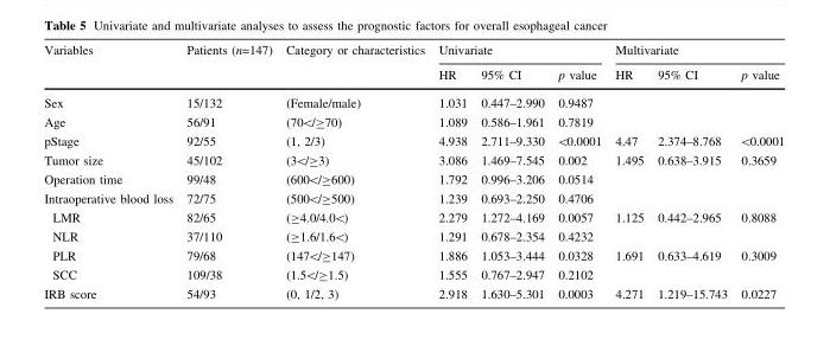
<table><thead><tr><td rowspan="2">Variables</td><td rowspan="2">Patients (n=147)</td><td rowspan="2">Category or characteristics</td><td colspan="3">Univariate</td><td colspan="3">Multivariate</td></tr><tr><td>HR</td><td>95% CI</td><td>p value</td><td>HR</td><td>95% CI</td><td>p value</td></tr></thead><tbody><tr><td>Sex</td><td>15/132</td><td>(Female/male)</td><td>1.031</td><td>0.447–2.990</td><td>0.9487</td><td></td><td></td><td></td></tr><tr><td>Age</td><td>56/91</td><td>(70&lt;/≥70)</td><td>1.089</td><td>0.586–1.961</td><td>0.7819</td><td></td><td></td><td></td></tr><tr><td>pStage</td><td>92/55</td><td>(1, 2/3)</td><td>4.938</td><td>2.711–9.330</td><td>&lt;0.0001</td><td>4.47</td><td>2.374–8.768</td><td>&lt;0.0001</td></tr><tr><td>Tumor size</td><td>45/102</td><td>(3&lt;/≥3)</td><td>3.086</td><td>1.469–7.545</td><td>0.002</td><td>1.495</td><td>0.638–3.915</td><td>0.3659</td></tr><tr><td>Operation time</td><td>99/48</td><td>(600&lt;/≥600)</td><td>1.792</td><td>0.996–3.206</td><td>0.0514</td><td></td><td></td><td></td></tr><tr><td>Intraoperative blood loss</td><td>72/75</td><td>(500&lt;/≥500)</td><td>1.239</td><td>0.693–2.250</td><td>0.4706</td><td></td><td></td><td></td></tr><tr><td>LMR</td><td>82/65</td><td>(≥4.0/4.0&lt;)</td><td>2.279</td><td>1.272–4.169</td><td>0.0057</td><td>1.125</td><td>0.442–2.965</td><td>0.8088</td></tr><tr><td>NLR</td><td>37/110</td><td>(≥1.6/1.6&lt;)</td><td>1.291</td><td>0.678–2.354</td><td>0.4232</td><td></td><td></td><td></td></tr><tr><td>PLR</td><td>79/68</td><td>(147&lt;/≥147)</td><td>1.886</td><td>1.053–3.444</td><td>0.0328</td><td>1.691</td><td>0.633–4.619</td><td>0.3009</td></tr><tr><td>SCC</td><td>109/38</td><td>(1.5&lt;/≥1.5)</td><td>1.555</td><td>0.767–2.947</td><td>0.2102</td><td></td><td></td><td></td></tr><tr><td>IRB score</td><td>54/93</td><td>(0, 1/2, 3)</td><td>2.918</td><td>1.630–5.301</td><td>0.0003</td><td>4.271</td><td>1.219–15.743</td><td>0.0227</td></tr></tbody></table>